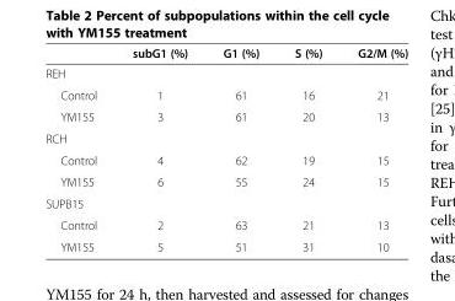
<table><thead><tr><td></td><td>subG1 (%)</td><td>G1 (%)</td><td>S (%)</td><td>G2/M (%)</td></tr></thead><tbody><tr><td colspan="5">REH</td></tr><tr><td>Control</td><td>1</td><td>61</td><td>16</td><td>21</td></tr><tr><td>YM155</td><td>3</td><td>61</td><td>20</td><td>13</td></tr><tr><td colspan="5">RCH</td></tr><tr><td>Control</td><td>4</td><td>62</td><td>19</td><td>15</td></tr><tr><td>YM155</td><td>6</td><td>55</td><td>24</td><td>15</td></tr><tr><td colspan="5">SUPB15</td></tr><tr><td>Control</td><td>2</td><td>63</td><td>21</td><td>13</td></tr><tr><td>YM155</td><td>5</td><td>51</td><td>31</td><td>10</td></tr></tbody></table>